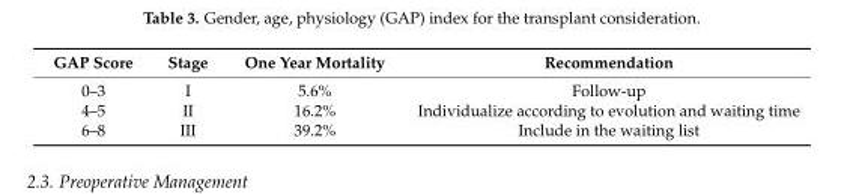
<table><thead><tr><td>GAP Score</td><td>Stage</td><td>One Year Mortality</td><td>Recommendation</td></tr></thead><tbody><tr><td>0–3</td><td>I</td><td>5.6%</td><td>Follow-up</td></tr><tr><td>4–5</td><td>II</td><td>16.2%</td><td>Individualize according to evolution and waiting time</td></tr><tr><td>6–8</td><td>III</td><td>39.2%</td><td>Include in the waiting list</td></tr></tbody></table>